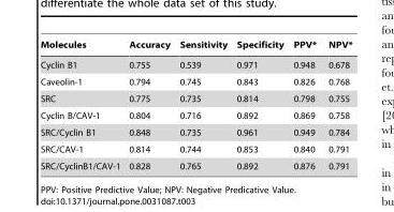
<table><thead><tr><td>Molecules</td><td>Accuracy</td><td>Sensitivity</td><td>Specificity</td><td>PPV*</td><td>NPV*</td></tr></thead><tbody><tr><td>Cyclin B1</td><td>0.755</td><td>0.539</td><td>0.971</td><td>0.948</td><td>0.678</td></tr><tr><td>Caveolin-1</td><td>0.794</td><td>0.745</td><td>0.843</td><td>0.826</td><td>0.768</td></tr><tr><td>SRC</td><td>0.775</td><td>0.735</td><td>0.814</td><td>0.798</td><td>0.755</td></tr><tr><td>Cyclin B/CAV-1</td><td>0.804</td><td>0.716</td><td>0.892</td><td>0.869</td><td>0.758</td></tr><tr><td>SRC/Cyclin B1</td><td>0.848</td><td>0.735</td><td>0.961</td><td>0.949</td><td>0.784</td></tr><tr><td>SRC/CAV-1</td><td>0.814</td><td>0.744</td><td>0.853</td><td>0.840</td><td>0.791</td></tr><tr><td>SRC/CyclinB1/CAV-1</td><td>0.828</td><td>0.765</td><td>0.892</td><td>0.876</td><td>0.791</td></tr></tbody></table>